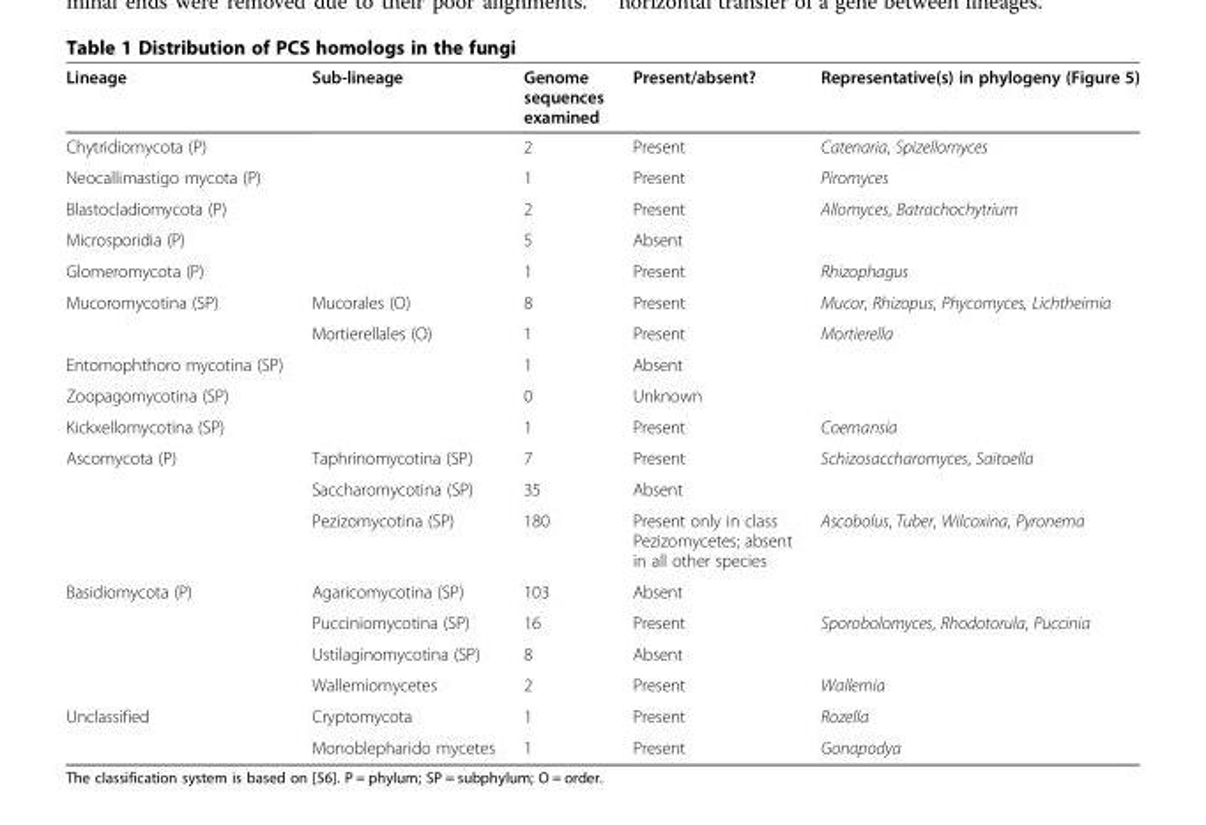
<table><thead><tr><td>Lineage</td><td>Sub-lineage</td><td>Genome sequences examined</td><td>Present/absent?</td><td>Representative(s) in phylogeny (Figure 5)</td></tr></thead><tbody><tr><td>Chytridiomycota (P)</td><td></td><td>2</td><td>Present</td><td>Catenaria, Spizellomyces</td></tr><tr><td>Neocallimastigo mycota (P)</td><td></td><td>1</td><td>Present</td><td>Piromyces</td></tr><tr><td>Blastocladiomycota (P)</td><td></td><td>2</td><td>Present</td><td>Allomyces, Batrachochytrium</td></tr><tr><td>Microsporidia (P)</td><td></td><td>5</td><td>Absent</td><td></td></tr><tr><td>Glomeromycota (P)</td><td></td><td>1</td><td>Present</td><td>Rhizophagus</td></tr><tr><td rowspan="2">Mucoromycotina (SP)</td><td>Mucorales (O)</td><td>8</td><td>Present</td><td>Mucor, Rhizopus, Phycomyces, Lichtheimia</td></tr><tr><td>Mortierellales (O)</td><td>1</td><td>Present</td><td>Mortierella</td></tr><tr><td>Entomophthoro mycotina (SP)</td><td></td><td>1</td><td>Absent</td><td></td></tr><tr><td>Zoopagomycotina (SP)</td><td></td><td>0</td><td>Unknown</td><td></td></tr><tr><td>Kickxellomycotina (SP)</td><td></td><td>1</td><td>Present</td><td>Coemansia</td></tr><tr><td rowspan="3">Ascomycota (P)</td><td>Taphrinomycotina (SP)</td><td>7</td><td>Present</td><td>Schizosaccharomyces, Saitoella</td></tr><tr><td>Saccharomycotina (SP)</td><td>35</td><td>Absent</td><td></td></tr><tr><td>Pezizomycotina (SP)</td><td>180</td><td>Present only in class Pezizomycetes; absent in all other species</td><td>Ascobolus, Tuber, Wilcoxina, Pyronema</td></tr><tr><td rowspan="4">Basidiomycota (P)</td><td>Agaricomycotina (SP)</td><td>103</td><td>Absent</td><td></td></tr><tr><td>Pucciniomycotina (SP)</td><td>16</td><td>Present</td><td>Sporobolomyces, Rhodotorula, Puccinia</td></tr><tr><td>Ustilaginomycotina (SP)</td><td>8</td><td>Absent</td><td></td></tr><tr><td>Wallemiomycetes</td><td>2</td><td>Present</td><td>Wallemia</td></tr><tr><td rowspan="2">Unclassified</td><td>Cryptomycota</td><td>1</td><td>Present</td><td>Rozella</td></tr><tr><td>Monoblepharido mycetes</td><td>1</td><td>Present</td><td>Gonapodya</td></tr></tbody></table>